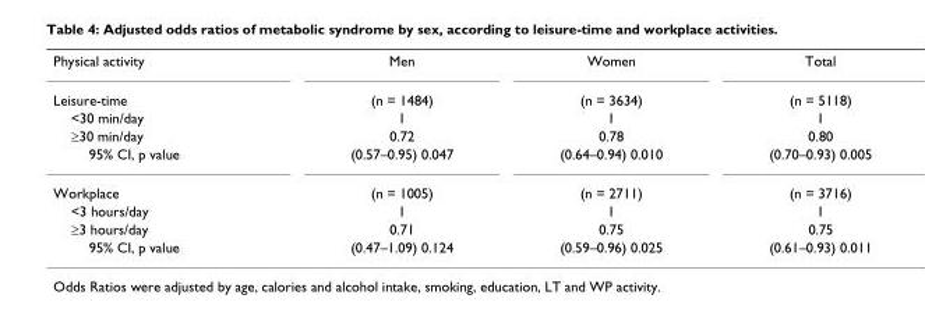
<table><tbody><tr><td>Physical activity</td><td>Men</td><td>Women</td><td>Total</td></tr><tr><td>Leisure-time</td><td>(n = 1484)</td><td>(n = 3634)</td><td>(n = 5118)</td></tr><tr><td>&lt;30 min/day</td><td>1</td><td>1</td><td>1</td></tr><tr><td>≥30 min/day</td><td>0.72</td><td>0.78</td><td>0.80</td></tr><tr><td>95% CI, p value</td><td>(0.57–0.95) 0.047</td><td>(0.64–0.94) 0.010</td><td>(0.70–0.93) 0.005</td></tr><tr><td>Workplace</td><td>(n = 1005)</td><td>(n = 2711)</td><td>(n = 3716)</td></tr><tr><td>&lt;3 hours/day</td><td>1</td><td>1</td><td>1</td></tr><tr><td>≥3 hours/day</td><td>0.71</td><td>0.75</td><td>0.75</td></tr><tr><td>95% CI, p value</td><td>(0.47–1.09) 0.124</td><td>(0.59–0.96) 0.025</td><td>(0.61–0.93) 0.011</td></tr></tbody></table>